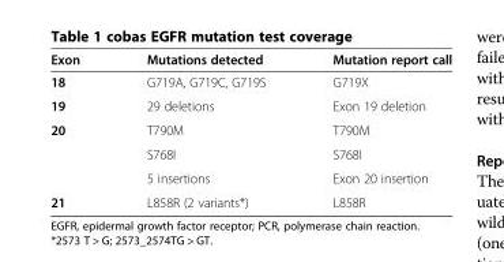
<table><thead><tr><td>Exon</td><td>Mutations detected</td><td>Mutation report call</td></tr></thead><tbody><tr><td>18</td><td>G719A, G719C, G719S</td><td>G719X</td></tr><tr><td>19</td><td>29 deletions</td><td>Exon 19 deletion</td></tr><tr><td rowspan="3">20</td><td>T790M</td><td>T790M</td></tr><tr><td>S768I</td><td>S768I</td></tr><tr><td>5 insertions</td><td>Exon 20 insertion</td></tr><tr><td>21</td><td>L858R (2 variants*)</td><td>L858R</td></tr></tbody></table>